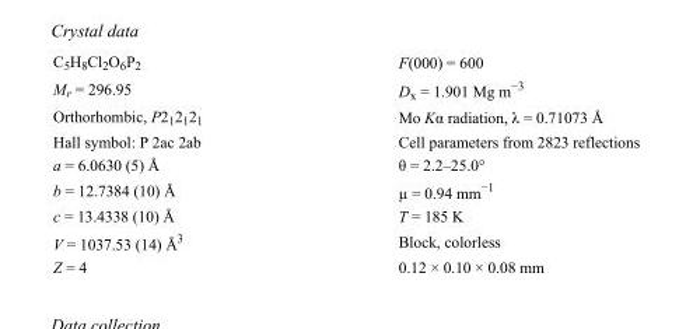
<table><tbody><tr><td>C<sub>5</sub>H<sub>8</sub>Cl<sub>2</sub>O<sub>6</sub>P<sub>2</sub></td><td>F(000) = 600</td></tr><tr><td>M<sub>r</sub> = 296.95</td><td>D<sub>x</sub> = 1.901 Mg m<sup>−3</sup></td></tr><tr><td>Orthorhombic, P2<sub>1</sub>2<sub>1</sub>2<sub>1</sub></td><td>Mo Kα radiation, λ = 0.71073 Å</td></tr><tr><td>Hall symbol: P 2ac 2ab</td><td>Cell parameters from 2823 reflections</td></tr><tr><td>a = 6.0630 (5) Å</td><td>θ = 2.2–25.0°</td></tr><tr><td>b = 12.7384 (10) Å</td><td>µ = 0.94 mm<sup>−1</sup></td></tr><tr><td>c = 13.4338 (10) Å</td><td>T = 185 K</td></tr><tr><td>V = 1037.53 (14) Å<sup>3</sup></td><td>Block, colorless</td></tr><tr><td>Z = 4</td><td>0.12 × 0.10 × 0.08 mm</td></tr></tbody></table>